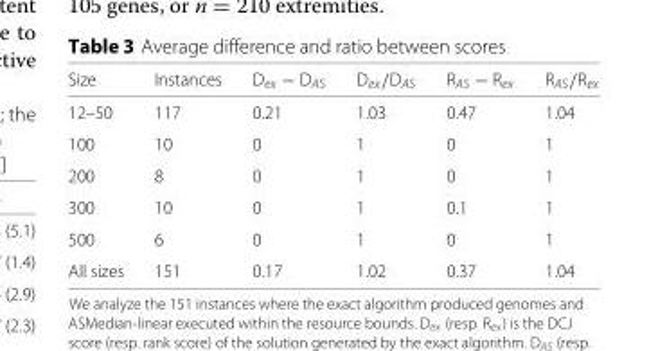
<table><thead><tr><td>Size</td><td>Instances</td><td>D<sub>ex</sub> − D<sub>AS</sub></td><td>D<sub>ex</sub>/D<sub>AS</sub></td><td>R<sub>AS</sub> − R<sub>ex</sub></td><td>R<sub>AS</sub>/R<sub>ex</sub></td></tr></thead><tbody><tr><td>12–50</td><td>117</td><td>0.21</td><td>1.03</td><td>0.47</td><td>1.04</td></tr><tr><td>100</td><td>10</td><td>0</td><td>1</td><td>0</td><td>1</td></tr><tr><td>200</td><td>8</td><td>0</td><td>1</td><td>0</td><td>1</td></tr><tr><td>300</td><td>10</td><td>0</td><td>1</td><td>0.1</td><td>1</td></tr><tr><td>500</td><td>6</td><td>0</td><td>1</td><td>0</td><td>1</td></tr><tr><td>All sizes</td><td>151</td><td>0.17</td><td>1.02</td><td>0.37</td><td>1.04</td></tr></tbody></table>